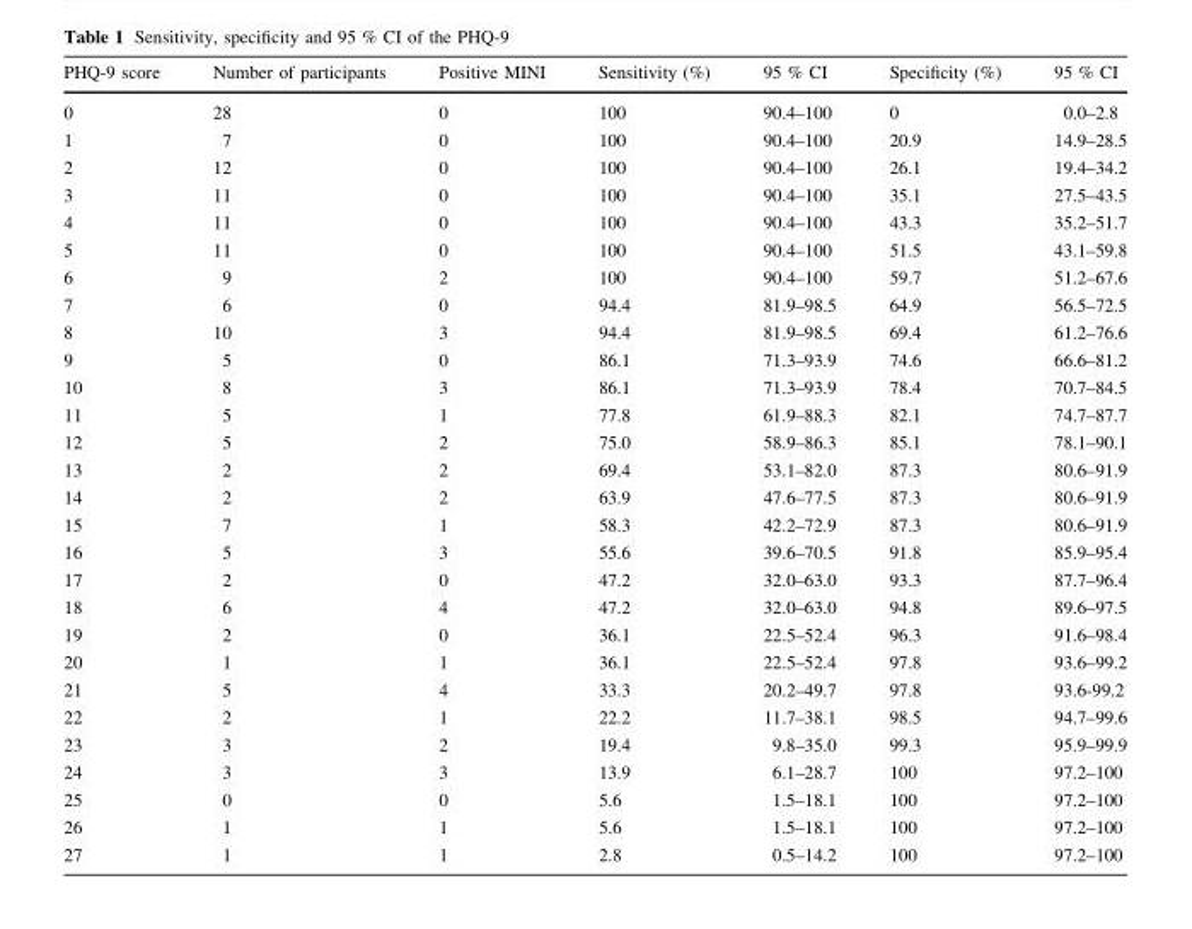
<table><thead><tr><td>PHQ-9 score</td><td>Number of participants</td><td>Positive MINI</td><td>Sensitivity (%)</td><td>95 % CI</td><td>Specificity (%)</td><td>95 % CI</td></tr></thead><tbody><tr><td>0</td><td>28</td><td>0</td><td>100</td><td>90.4–100</td><td>0</td><td>0.0–2.8</td></tr><tr><td>1</td><td>7</td><td>0</td><td>100</td><td>90.4–100</td><td>20.9</td><td>14.9–28.5</td></tr><tr><td>2</td><td>12</td><td>0</td><td>100</td><td>90.4–100</td><td>26.1</td><td>19.4–34.2</td></tr><tr><td>3</td><td>11</td><td>0</td><td>100</td><td>90.4–100</td><td>35.1</td><td>27.5–43.5</td></tr><tr><td>4</td><td>11</td><td>0</td><td>100</td><td>90.4–100</td><td>43.3</td><td>35.2–51.7</td></tr><tr><td>5</td><td>11</td><td>0</td><td>100</td><td>90.4–100</td><td>51.5</td><td>43.1–59.8</td></tr><tr><td>6</td><td>9</td><td>2</td><td>100</td><td>90.4–100</td><td>59.7</td><td>51.2–67.6</td></tr><tr><td>7</td><td>6</td><td>0</td><td>94.4</td><td>81.9–98.5</td><td>64.9</td><td>56.5–72.5</td></tr><tr><td>8</td><td>10</td><td>3</td><td>94.4</td><td>81.9–98.5</td><td>69.4</td><td>61.2–76.6</td></tr><tr><td>9</td><td>5</td><td>0</td><td>86.1</td><td>71.3–93.9</td><td>74.6</td><td>66.6–81.2</td></tr><tr><td>10</td><td>8</td><td>3</td><td>86.1</td><td>71.3–93.9</td><td>78.4</td><td>70.7–84.5</td></tr><tr><td>11</td><td>5</td><td>1</td><td>77.8</td><td>61.9–88.3</td><td>82.1</td><td>74.7–87.7</td></tr><tr><td>12</td><td>5</td><td>2</td><td>75.0</td><td>58.9–86.3</td><td>85.1</td><td>78.1–90.1</td></tr><tr><td>13</td><td>2</td><td>2</td><td>69.4</td><td>53.1–82.0</td><td>87.3</td><td>80.6–91.9</td></tr><tr><td>14</td><td>2</td><td>2</td><td>63.9</td><td>47.6–77.5</td><td>87.3</td><td>80.6–91.9</td></tr><tr><td>15</td><td>7</td><td>1</td><td>58.3</td><td>42.2–72.9</td><td>87.3</td><td>80.6–91.9</td></tr><tr><td>16</td><td>5</td><td>3</td><td>55.6</td><td>39.6–70.5</td><td>91.8</td><td>85.9–95.4</td></tr><tr><td>17</td><td>2</td><td>0</td><td>47.2</td><td>32.0–63.0</td><td>93.3</td><td>87.7–96.4</td></tr><tr><td>18</td><td>6</td><td>4</td><td>47.2</td><td>32.0–63.0</td><td>94.8</td><td>89.6–97.5</td></tr><tr><td>19</td><td>2</td><td>0</td><td>36.1</td><td>22.5–52.4</td><td>96.3</td><td>91.6–98.4</td></tr><tr><td>20</td><td>1</td><td>1</td><td>36.1</td><td>22.5–52.4</td><td>97.8</td><td>93.6–99.2</td></tr><tr><td>21</td><td>5</td><td>4</td><td>33.3</td><td>20.2–49.7</td><td>97.8</td><td>93.6-99.2</td></tr><tr><td>22</td><td>2</td><td>1</td><td>22.2</td><td>11.7–38.1</td><td>98.5</td><td>94.7–99.6</td></tr><tr><td>23</td><td>3</td><td>2</td><td>19.4</td><td>9.8–35.0</td><td>99.3</td><td>95.9–99.9</td></tr><tr><td>24</td><td>3</td><td>3</td><td>13.9</td><td>6.1–28.7</td><td>100</td><td>97.2–100</td></tr><tr><td>25</td><td>0</td><td>0</td><td>5.6</td><td>1.5–18.1</td><td>100</td><td>97.2–100</td></tr><tr><td>26</td><td>1</td><td>1</td><td>5.6</td><td>1.5–18.1</td><td>100</td><td>97.2–100</td></tr><tr><td>27</td><td>1</td><td>1</td><td>2.8</td><td>0.5–14.2</td><td>100</td><td>97.2–100</td></tr></tbody></table>